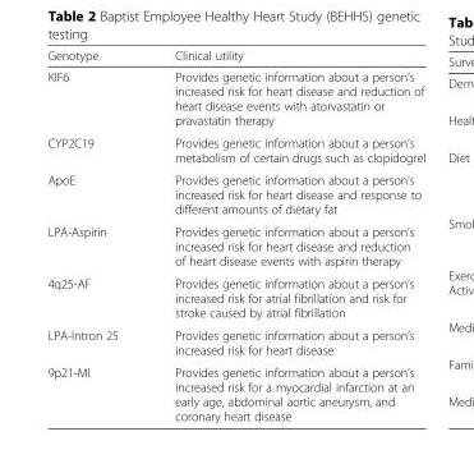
<table><thead><tr><td>Genotype</td><td>Clinical utility</td></tr></thead><tbody><tr><td>KIF6</td><td>Provides genetic information about a person’s increased risk for heart disease and reduction of heart disease events with atorvastatin or pravastatin therapy</td></tr><tr><td>CYP2C19</td><td>Provides genetic information about a person’s metabolism of certain drugs such as clopidogrel</td></tr><tr><td>ApoE</td><td>Provides genetic information about a person’s increased risk for heart disease and response to different amounts of dietary fat</td></tr><tr><td>LPA-Aspirin</td><td>Provides genetic information about a person’s increased risk for heart disease and reduction of heart disease events with aspirin therapy</td></tr><tr><td>4q25-AF</td><td>Provides genetic information about a person’s increased risk for atrial fibrillation and risk for stroke caused by atrial fibrillation</td></tr><tr><td>LPA-Intron 25</td><td>Provides genetic information about a person’s increased risk for heart disease</td></tr><tr><td>9p21-MI</td><td>Provides genetic information about a person’s increased risk for a myocardial infarction at an early age, abdominal aortic aneurysm, and coronary heart disease</td></tr></tbody></table>